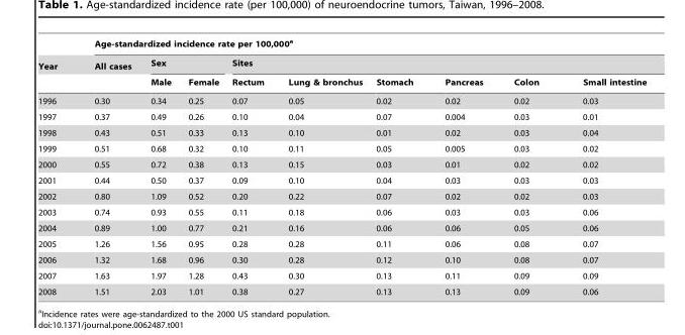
<table><thead><tr><td rowspan="3">Year</td><td colspan="9">Age-standardized incidence rate per 100,000<sup>a</sup></td></tr><tr><td rowspan="2">All cases</td><td colspan="2">Sex</td><td colspan="6">Sites</td></tr><tr><td>Male</td><td>Female</td><td>Rectum</td><td>Lung &amp; bronchus</td><td>Stomach</td><td>Pancreas</td><td>Colon</td><td>Small intestine</td></tr></thead><tbody><tr><td>1996</td><td>0.30</td><td>0.34</td><td>0.25</td><td>0.07</td><td>0.05</td><td>0.02</td><td>0.02</td><td>0.02</td><td>0.03</td></tr><tr><td>1997</td><td>0.37</td><td>0.49</td><td>0.26</td><td>0.10</td><td>0.04</td><td>0.07</td><td>0.004</td><td>0.03</td><td>0.01</td></tr><tr><td>1998</td><td>0.43</td><td>0.51</td><td>0.33</td><td>0.13</td><td>0.10</td><td>0.01</td><td>0.02</td><td>0.03</td><td>0.04</td></tr><tr><td>1999</td><td>0.51</td><td>0.68</td><td>0.32</td><td>0.10</td><td>0.11</td><td>0.05</td><td>0.005</td><td>0.03</td><td>0.02</td></tr><tr><td>2000</td><td>0.55</td><td>0.72</td><td>0.38</td><td>0.13</td><td>0.15</td><td>0.03</td><td>0.01</td><td>0.02</td><td>0.02</td></tr><tr><td>2001</td><td>0.44</td><td>0.50</td><td>0.37</td><td>0.09</td><td>0.10</td><td>0.04</td><td>0.03</td><td>0.03</td><td>0.03</td></tr><tr><td>2002</td><td>0.80</td><td>1.09</td><td>0.52</td><td>0.20</td><td>0.22</td><td>0.07</td><td>0.02</td><td>0.02</td><td>0.03</td></tr><tr><td>2003</td><td>0.74</td><td>0.93</td><td>0.55</td><td>0.11</td><td>0.18</td><td>0.06</td><td>0.03</td><td>0.03</td><td>0.06</td></tr><tr><td>2004</td><td>0.89</td><td>1.00</td><td>0.77</td><td>0.21</td><td>0.16</td><td>0.06</td><td>0.06</td><td>0.05</td><td>0.06</td></tr><tr><td>2005</td><td>1.26</td><td>1.56</td><td>0.95</td><td>0.28</td><td>0.28</td><td>0.11</td><td>0.06</td><td>0.08</td><td>0.07</td></tr><tr><td>2006</td><td>1.32</td><td>1.68</td><td>0.96</td><td>0.30</td><td>0.28</td><td>0.12</td><td>0.10</td><td>0.08</td><td>0.07</td></tr><tr><td>2007</td><td>1.63</td><td>1.97</td><td>1.28</td><td>0.43</td><td>0.30</td><td>0.13</td><td>0.11</td><td>0.09</td><td>0.09</td></tr><tr><td>2008</td><td>1.51</td><td>2.03</td><td>1.01</td><td>0.38</td><td>0.27</td><td>0.13</td><td>0.13</td><td>0.09</td><td>0.06</td></tr></tbody></table>